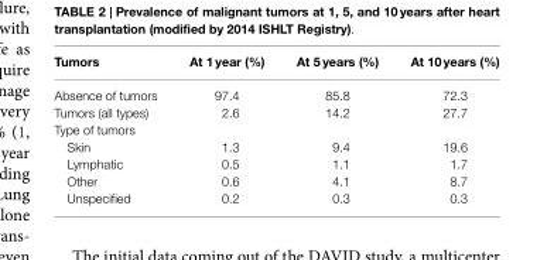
<table><thead><tr><td>Tumors</td><td>At 1 year (%)</td><td>At 5 years (%)</td><td>At 10 years (%)</td></tr></thead><tbody><tr><td>Absence of tumors</td><td>97.4</td><td>85.8</td><td>72.3</td></tr><tr><td>Tumors (all types)</td><td>2.6</td><td>14.2</td><td>27.7</td></tr><tr><td colspan="4">Type of tumors</td></tr><tr><td>Skin</td><td>1.3</td><td>9.4</td><td>19.6</td></tr><tr><td>Lymphatic</td><td>0.5</td><td>1.1</td><td>1.7</td></tr><tr><td>Other</td><td>0.6</td><td>4.1</td><td>8.7</td></tr><tr><td>Unspecified</td><td>0.2</td><td>0.3</td><td>0.3</td></tr></tbody></table>